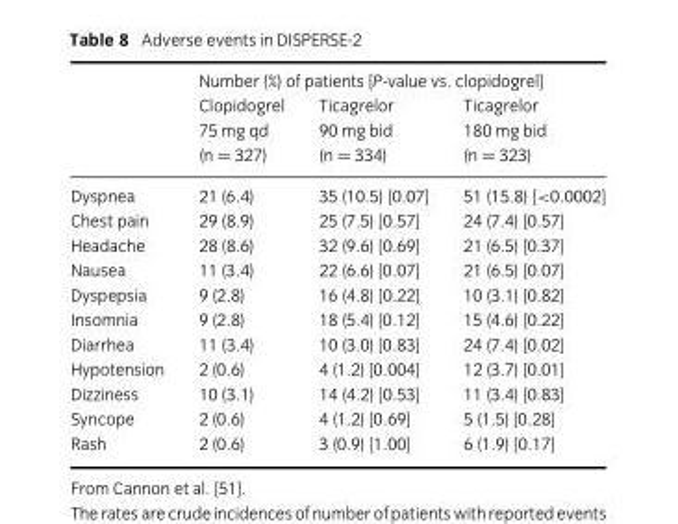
<table><thead><tr><td rowspan="2"></td><td colspan="3">Number (%) of patients [P-value vs. clopidogrel]</td></tr><tr><td>Clopidogrel 75 mg qd (n = 327)</td><td>Ticagrelor 90 mg bid (n = 334)</td><td>Ticagrelor 180 mg bid (n = 323)</td></tr></thead><tbody><tr><td>Dyspnea</td><td>21 (6.4)</td><td>35 (10.5) [0.07]</td><td>51 (15.8) [&lt;0.0002]</td></tr><tr><td>Chest pain</td><td>29 (8.9)</td><td>25 (7.5) [0.57]</td><td>24 (7.4) [0.57]</td></tr><tr><td>Headache</td><td>28 (8.6)</td><td>32 (9.6) [0.69]</td><td>21 (6.5) [0.37]</td></tr><tr><td>Nausea</td><td>11 (3.4)</td><td>22 (6.6) [0.07]</td><td>21 (6.5) [0.07]</td></tr><tr><td>Dyspepsia</td><td>9 (2.8)</td><td>16 (4.8) [0.22]</td><td>10 (3.1) [0.82]</td></tr><tr><td>Insomnia</td><td>9 (2.8)</td><td>18 (5.4) [0.12]</td><td>15 (4.6) [0.22]</td></tr><tr><td>Diarrhea</td><td>11 (3.4)</td><td>10 (3.0) [0.83]</td><td>24 (7.4) [0.02]</td></tr><tr><td>Hypotension</td><td>2 (0.6)</td><td>4 (1.2) [0.004]</td><td>12 (3.7) [0.01]</td></tr><tr><td>Dizziness</td><td>10 (3.1)</td><td>14 (4.2) [0.53]</td><td>11 (3.4) [0.83]</td></tr><tr><td>Syncope</td><td>2 (0.6)</td><td>4 (1.2) [0.69]</td><td>5 (1.5) [0.28]</td></tr><tr><td>Rash</td><td>2 (0.6)</td><td>3 (0.9) [1.00]</td><td>6 (1.9) [0.17]</td></tr></tbody></table>